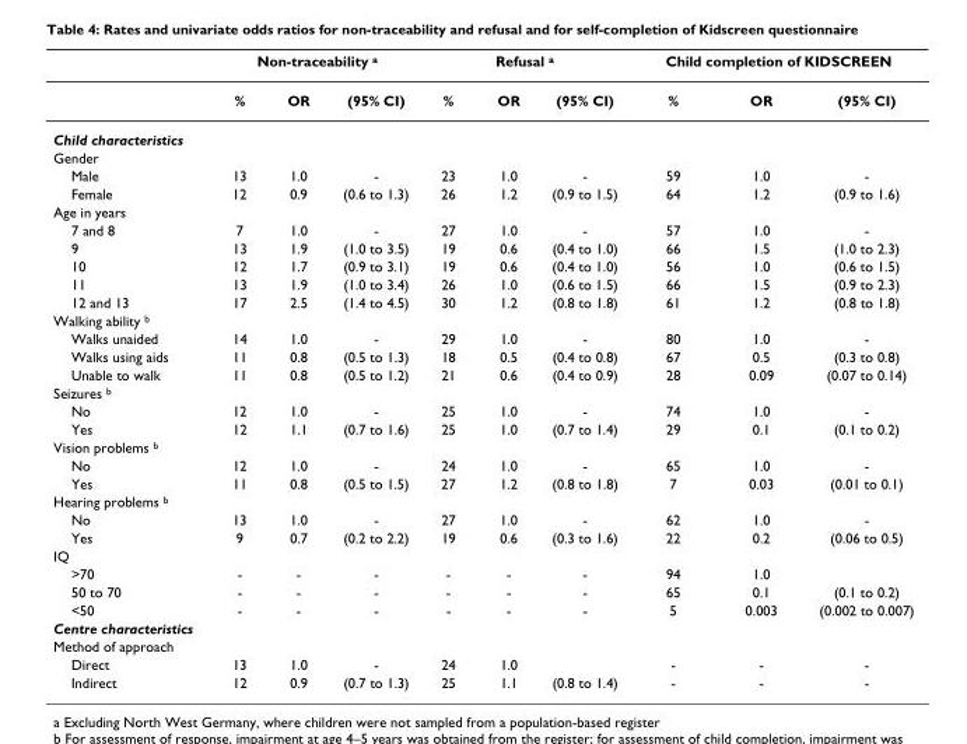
<table><thead><tr><td rowspan="2"></td><td colspan="3">Non-traceability a</td><td colspan="3">Refusal a</td><td colspan="3">Child completion of KIDSCREEN</td></tr><tr><td>%</td><td>OR</td><td>(95% CI)</td><td>%</td><td>OR</td><td>(95% CI)</td><td>%</td><td>OR</td><td>(95% CI)</td></tr></thead><tbody><tr><td colspan="10">Child characteristics</td></tr><tr><td colspan="10">Gender</td></tr><tr><td>Male</td><td>13</td><td>1.0</td><td>-</td><td>23</td><td>1.0</td><td>-</td><td>59</td><td>1.0</td><td>-</td></tr><tr><td>Female</td><td>12</td><td>0.9</td><td>(0.6 to 1.3)</td><td>26</td><td>1.2</td><td>(0.9 to 1.5)</td><td>64</td><td>1.2</td><td>(0.9 to 1.6)</td></tr><tr><td colspan="10">Age in years</td></tr><tr><td>7 and 8</td><td>7</td><td>1.0</td><td>-</td><td>27</td><td>1.0</td><td>-</td><td>57</td><td>1.0</td><td>-</td></tr><tr><td>9</td><td>13</td><td>1.9</td><td>(1.0 to 3.5)</td><td>19</td><td>0.6</td><td>(0.4 to 1.0)</td><td>66</td><td>1.5</td><td>(1.0 to 2.3)</td></tr><tr><td>10</td><td>12</td><td>1.7</td><td>(0.9 to 3.1)</td><td>19</td><td>0.6</td><td>(0.4 to 1.0)</td><td>56</td><td>1.0</td><td>(0.6 to 1.5)</td></tr><tr><td>11</td><td>13</td><td>1.9</td><td>(1.0 to 3.4)</td><td>26</td><td>1.0</td><td>(0.6 to 1.5)</td><td>66</td><td>1.5</td><td>(0.9 to 2.3)</td></tr><tr><td>12 and 13</td><td>17</td><td>2.5</td><td>(1.4 to 4.5)</td><td>30</td><td>1.2</td><td>(0.8 to 1.8)</td><td>61</td><td>1.2</td><td>(0.8 to 1.8)</td></tr><tr><td colspan="10">Walking ability b</td></tr><tr><td>Walks unaided</td><td>14</td><td>1.0</td><td>-</td><td>29</td><td>1.0</td><td>-</td><td>80</td><td>1.0</td><td>-</td></tr><tr><td>Walks using aids</td><td>11</td><td>0.8</td><td>(0.5 to 1.3)</td><td>18</td><td>0.5</td><td>(0.4 to 0.8)</td><td>67</td><td>0.5</td><td>(0.3 to 0.8)</td></tr><tr><td>Unable to walk</td><td>11</td><td>0.8</td><td>(0.5 to 1.2)</td><td>21</td><td>0.6</td><td>(0.4 to 0.9)</td><td>28</td><td>0.09</td><td>(0.07 to 0.14)</td></tr><tr><td colspan="10">Seizures b</td></tr><tr><td>No</td><td>12</td><td>1.0</td><td>-</td><td>25</td><td>1.0</td><td>-</td><td>74</td><td>1.0</td><td>-</td></tr><tr><td>Yes</td><td>12</td><td>1.1</td><td>(0.7 to 1.6)</td><td>25</td><td>1.0</td><td>(0.7 to 1.4)</td><td>29</td><td>0.1</td><td>(0.1 to 0.2)</td></tr><tr><td colspan="10">Vision problems b</td></tr><tr><td>No</td><td>12</td><td>1.0</td><td>-</td><td>24</td><td>1.0</td><td>-</td><td>65</td><td>1.0</td><td>-</td></tr><tr><td>Yes</td><td>11</td><td>0.8</td><td>(0.5 to 1.5)</td><td>27</td><td>1.2</td><td>(0.8 to 1.8)</td><td>7</td><td>0.03</td><td>(0.01 to 0.1)</td></tr><tr><td colspan="10">Hearing problems b</td></tr><tr><td>No</td><td>13</td><td>1.0</td><td>-</td><td>27</td><td>1.0</td><td>-</td><td>62</td><td>1.0</td><td>-</td></tr><tr><td>Yes</td><td>9</td><td>0.7</td><td>(0.2 to 2.2)</td><td>19</td><td>0.6</td><td>(0.3 to 1.6)</td><td>22</td><td>0.2</td><td>(0.06 to 0.5)</td></tr><tr><td colspan="10">IQ</td></tr><tr><td>&gt;70</td><td>-</td><td>-</td><td>-</td><td>-</td><td>-</td><td>-</td><td>94</td><td>1.0</td><td></td></tr><tr><td>50 to 70</td><td>-</td><td>-</td><td>-</td><td>-</td><td>-</td><td>-</td><td>65</td><td>0.1</td><td>(0.1 to 0.2)</td></tr><tr><td>&lt;50</td><td>-</td><td>-</td><td>-</td><td>-</td><td>-</td><td>-</td><td>5</td><td>0.003</td><td>(0.002 to 0.007)</td></tr><tr><td colspan="10">Centre characteristics</td></tr><tr><td colspan="10">Method of approach</td></tr><tr><td>Direct</td><td>13</td><td>1.0</td><td>-</td><td>24</td><td>1.0</td><td></td><td>-</td><td>-</td><td>-</td></tr><tr><td>Indirect</td><td>12</td><td>0.9</td><td>(0.7 to 1.3)</td><td>25</td><td>1.1</td><td>(0.8 to 1.4)</td><td>-</td><td>-</td><td>-</td></tr></tbody></table>